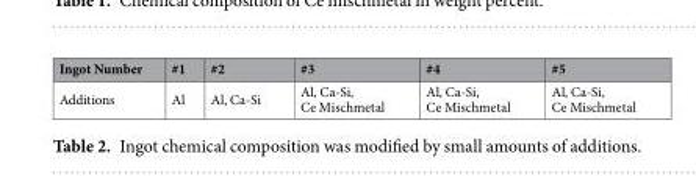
<table><thead><tr><td>Ingot Number</td><td>#1</td><td>#2</td><td>#3</td><td>#4</td><td>#5</td></tr></thead><tbody><tr><td>Additions</td><td>Al</td><td>Al, Ca-Si</td><td>Al, Ca-Si, Ce Mischmetal</td><td>Al, Ca-Si, Ce Mischmetal</td><td>Al, Ca-Si, Ce Mischmetal</td></tr></tbody></table>